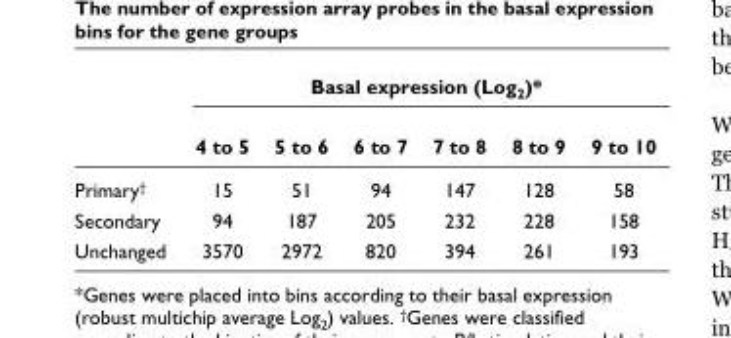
<table><thead><tr><td rowspan="2"></td><td colspan="6">Basal expression (Log<sub>2</sub>)*</td></tr><tr><td>4 to 5</td><td>5 to 6</td><td>6 to 7</td><td>7 to 8</td><td>8 to 9</td><td>9 to 10</td></tr></thead><tbody><tr><td>Primary<sup>†</sup></td><td>15</td><td>51</td><td>94</td><td>147</td><td>128</td><td>58</td></tr><tr><td>Secondary</td><td>94</td><td>187</td><td>205</td><td>232</td><td>228</td><td>158</td></tr><tr><td>Unchanged</td><td>3570</td><td>2972</td><td>820</td><td>394</td><td>261</td><td>193</td></tr></tbody></table>